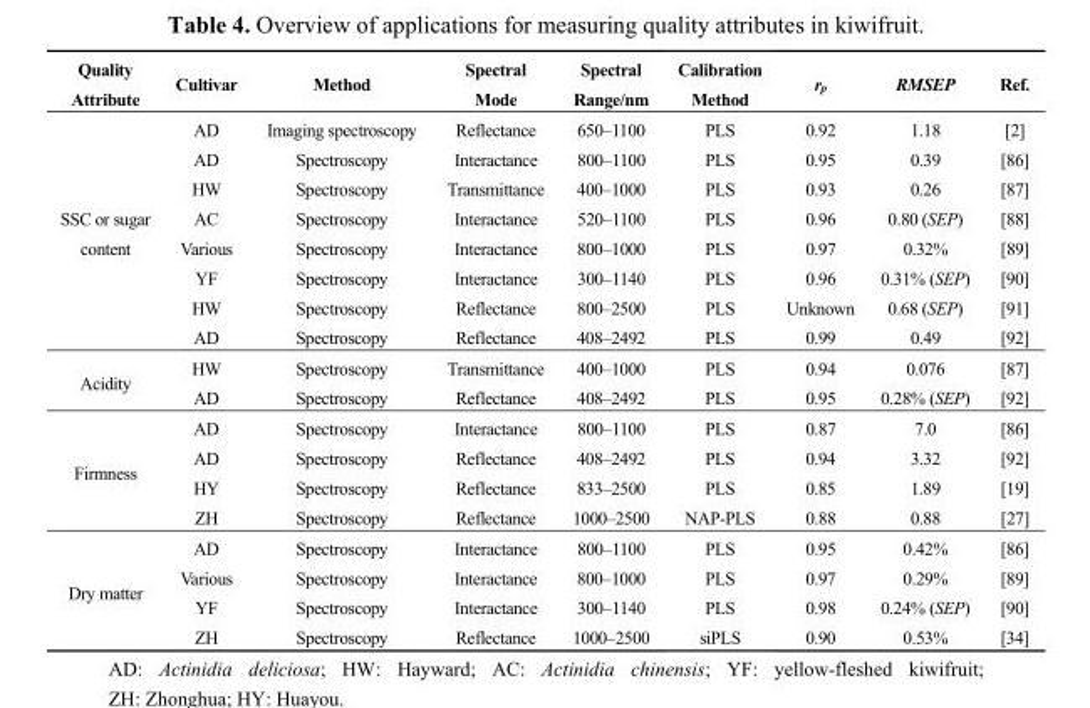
<table><thead><tr><td>Quality Attribute</td><td>Cultivar</td><td>Method</td><td>Spectral Mode</td><td>Spectral Range/nm</td><td>Calibration Method</td><td>r<sub>p</sub></td><td>RMSEP</td><td>Ref.</td></tr></thead><tbody><tr><td rowspan="8">SSC or sugar content</td><td>AD</td><td>Imaging spectroscopy</td><td>Reflectance</td><td>650–1100</td><td>PLS</td><td>0.92</td><td>1.18</td><td>[2]</td></tr><tr><td>AD</td><td>Spectroscopy</td><td>Interactance</td><td>800–1100</td><td>PLS</td><td>0.95</td><td>0.39</td><td>[86]</td></tr><tr><td>HW</td><td>Spectroscopy</td><td>Transmittance</td><td>400–1000</td><td>PLS</td><td>0.93</td><td>0.26</td><td>[87]</td></tr><tr><td>AC</td><td>Spectroscopy</td><td>Interactance</td><td>520–1100</td><td>PLS</td><td>0.96</td><td>0.80 (SEP)</td><td>[88]</td></tr><tr><td>Various</td><td>Spectroscopy</td><td>Interactance</td><td>800–1000</td><td>PLS</td><td>0.97</td><td>0.32%</td><td>[89]</td></tr><tr><td>YF</td><td>Spectroscopy</td><td>Interactance</td><td>300–1140</td><td>PLS</td><td>0.96</td><td>0.31% (SEP)</td><td>[90]</td></tr><tr><td>HW</td><td>Spectroscopy</td><td>Reflectance</td><td>800–2500</td><td>PLS</td><td>Unknown</td><td>0.68 (SEP)</td><td>[91]</td></tr><tr><td>AD</td><td>Spectroscopy</td><td>Reflectance</td><td>408–2492</td><td>PLS</td><td>0.99</td><td>0.49</td><td>[92]</td></tr><tr><td rowspan="2">Acidity</td><td>HW</td><td>Spectroscopy</td><td>Transmittance</td><td>400–1000</td><td>PLS</td><td>0.94</td><td>0.076</td><td>[87]</td></tr><tr><td>AD</td><td>Spectroscopy</td><td>Reflectance</td><td>408–2492</td><td>PLS</td><td>0.95</td><td>0.28% (SEP)</td><td>[92]</td></tr><tr><td rowspan="4">Firmness</td><td>AD</td><td>Spectroscopy</td><td>Interactance</td><td>800–1100</td><td>PLS</td><td>0.87</td><td>7.0</td><td>[86]</td></tr><tr><td>AD</td><td>Spectroscopy</td><td>Reflectance</td><td>408–2492</td><td>PLS</td><td>0.94</td><td>3.32</td><td>[92]</td></tr><tr><td>HY</td><td>Spectroscopy</td><td>Reflectance</td><td>833–2500</td><td>PLS</td><td>0.85</td><td>1.89</td><td>[19]</td></tr><tr><td>ZH</td><td>Spectroscopy</td><td>Reflectance</td><td>1000–2500</td><td>NAP-PLS</td><td>0.88</td><td>0.88</td><td>[27]</td></tr><tr><td rowspan="4">Dry matter</td><td>AD</td><td>Spectroscopy</td><td>Interactance</td><td>800–1100</td><td>PLS</td><td>0.95</td><td>0.42%</td><td>[86]</td></tr><tr><td>Various</td><td>Spectroscopy</td><td>Interactance</td><td>800–1000</td><td>PLS</td><td>0.97</td><td>0.29%</td><td>[89]</td></tr><tr><td>YF</td><td>Spectroscopy</td><td>Interactance</td><td>300–1140</td><td>PLS</td><td>0.98</td><td>0.24% (SEP)</td><td>[90]</td></tr><tr><td>ZH</td><td>Spectroscopy</td><td>Reflectance</td><td>1000–2500</td><td>siPLS</td><td>0.90</td><td>0.53%</td><td>[34]</td></tr></tbody></table>